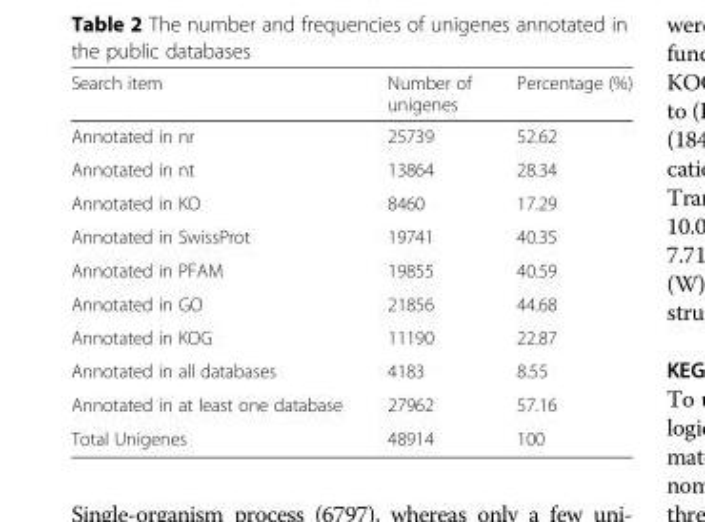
<table><thead><tr><td>Search item</td><td>Number of unigenes</td><td>Percentage (%)</td></tr></thead><tbody><tr><td>Annotated in nr</td><td>25739</td><td>52.62</td></tr><tr><td>Annotated in nt</td><td>13864</td><td>28.34</td></tr><tr><td>Annotated in KO</td><td>8460</td><td>17.29</td></tr><tr><td>Annotated in SwissProt</td><td>19741</td><td>40.35</td></tr><tr><td>Annotated in PFAM</td><td>19855</td><td>40.59</td></tr><tr><td>Annotated in GO</td><td>21856</td><td>44.68</td></tr><tr><td>Annotated in KOG</td><td>11190</td><td>22.87</td></tr><tr><td>Annotated in all databases</td><td>4183</td><td>8.55</td></tr><tr><td>Annotated in at least one database</td><td>27962</td><td>57.16</td></tr><tr><td>Total Unigenes</td><td>48914</td><td>100</td></tr></tbody></table>